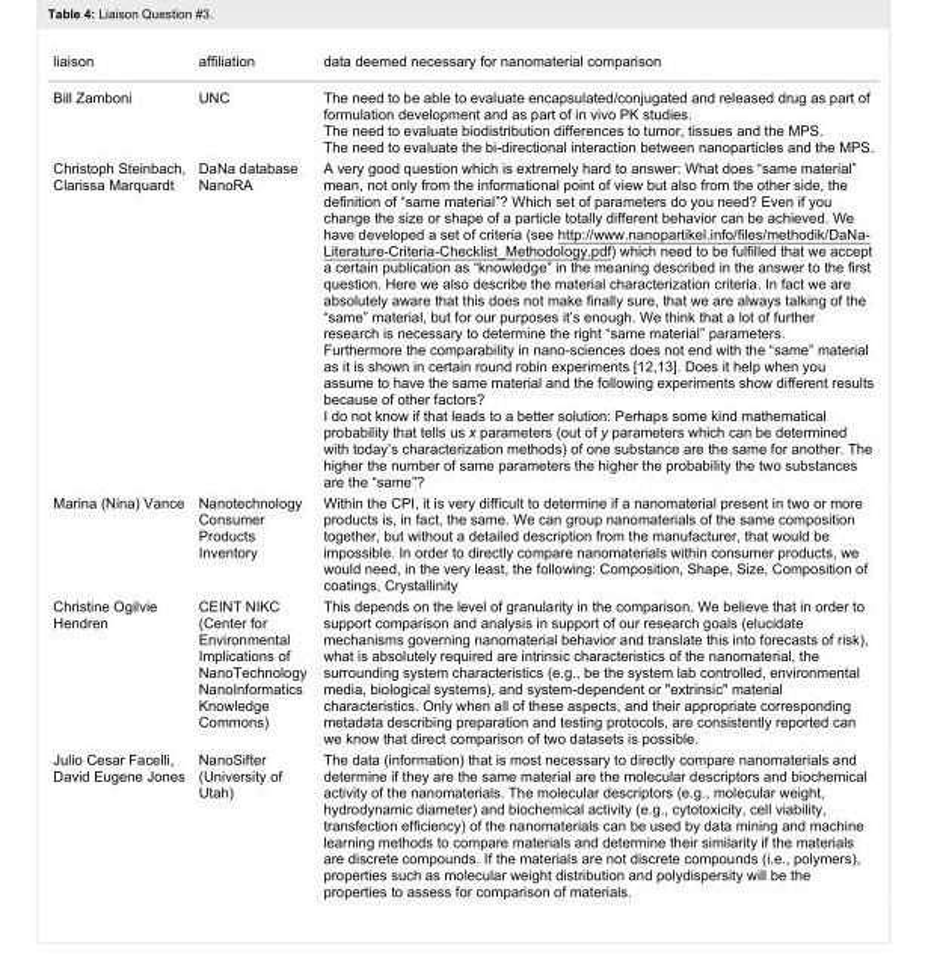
<table><tbody><tr><td>liaison</td><td>affiliation</td><td>data deemed necessary for nanomaterial comparison</td></tr><tr><td>Bill Zamboni</td><td>UNC</td><td>The need to be able to evaluate encapsulated/conjugated and released drug as part of formulation development and as part of in vivo PK studies. The need to evaluate biodistribution differences to tumor, tissues and the MPS. The need to evaluate the bi-directional interaction between nanoparticles and the MPS.</td></tr><tr><td>Christoph Steinbach, Clarissa Marquardt</td><td>DaNa database NanoRA</td><td>A very good question which is extremely hard to answer: What does “same material” mean, not only from the informational point of view but also from the other side, the definition of “same material”? Which set of parameters do you need? Even if you change the size or shape of a particle totally different behavior can be achieved. We have developed a set of criteria (see http://www.nanopartikel.info/files/methodik/DaNa- Literature-Criteria-Checklist_Methodology.pdf) which need to be fulfilled that we accept a certain publication as “knowledge” in the meaning described in the answer to the first question. Here we also describe the material characterization criteria. In fact we are absolutely aware that this does not make finally sure, that we are always talking of the “same” material, but for our purposes it’s enough. We think that a lot of further research is necessary to determine the right “same material” parameters. Furthermore the comparability in nano-sciences does not end with the “same” material as it is shown in certain round robin experiments [12–13]. Does it help when you assume to have the same material and the following experiments show different results because of other factors? I do not know if that leads to a better solution: Perhaps some kind mathematical probability that tells us x parameters (out of y parameters which can be determined with today’s characterization methods) of one substance are the same for another. The higher the number of same parameters the higher the probability the two substances are the “same”?</td></tr><tr><td>Marina (Nina) Vance</td><td>Nanotechnology Consumer Products Inventory</td><td>Within the CPI, it is very difficult to determine if a nanomaterial present in two or more products is, in fact, the same. We can group nanomaterials of the same composition together, but without a detailed description from the manufacturer, that would be impossible. In order to directly compare nanomaterials within consumer products, we would need, in the very least, the following: Composition, Shape, Size, Composition of coatings, Crystallinity</td></tr><tr><td>Christine Ogilvie Hendren</td><td>CEINT NIKC (Center for Environmental Implications of NanoTechnology NanoInformatics Knowledge Commons)</td><td>This depends on the level of granularity in the comparison. We believe that in order to support comparison and analysis in support of our research goals (elucidate mechanisms governing nanomaterial behavior and translate this into forecasts of risk), what is absolutely required are intrinsic characteristics of the nanomaterial, the surrounding system characteristics (e.g., be the system lab controlled, environmental media, biological systems), and system-dependent or &quot;extrinsic&quot; material characteristics. Only when all of these aspects, and their appropriate corresponding metadata describing preparation and testing protocols, are consistently reported can we know that direct comparison of two datasets is possible.</td></tr><tr><td>Julio Cesar Facelli, David Eugene Jones</td><td>NanoSifter (University of Utah)</td><td>The data (information) that is most necessary to directly compare nanomaterials and determine if they are the same material are the molecular descriptors and biochemical activity of the nanomaterials. The molecular descriptors (e.g., molecular weight, hydrodynamic diameter) and biochemical activity (e.g., cytotoxicity, cell viability, transfection efficiency) of the nanomaterials can be used by data mining and machine learning methods to compare materials and determine their similarity if the materials are discrete compounds. If the materials are not discrete compounds (i.e., polymers), properties such as molecular weight distribution and polydispersity will be the properties to assess for comparison of materials.</td></tr></tbody></table>